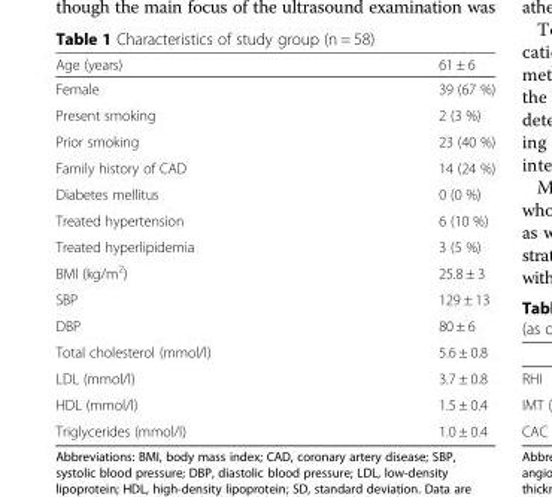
<table><thead><tr><td>Age (years)</td><td>61 ± 6</td></tr></thead><tbody><tr><td>Female</td><td>39 (67 %)</td></tr><tr><td>Present smoking</td><td>2 (3 %)</td></tr><tr><td>Prior smoking</td><td>23 (40 %)</td></tr><tr><td>Family history of CAD</td><td>14 (24 %)</td></tr><tr><td>Diabetes mellitus</td><td>0 (0 %)</td></tr><tr><td>Treated hypertension</td><td>6 (10 %)</td></tr><tr><td>Treated hyperlipidemia</td><td>3 (5 %)</td></tr><tr><td>BMI (kg/m<sup>2</sup>)</td><td>25.8 ± 3</td></tr><tr><td>SBP</td><td>129 ± 13</td></tr><tr><td>DBP</td><td>80 ± 6</td></tr><tr><td>Total cholesterol (mmol/l)</td><td>5.6 ± 0.8</td></tr><tr><td>LDL (mmol/l)</td><td>3.7 ± 0.8</td></tr><tr><td>HDL (mmol/l)</td><td>1.5 ± 0.4</td></tr><tr><td>Triglycerides (mmol/l)</td><td>1.0 ± 0.4</td></tr></tbody></table>